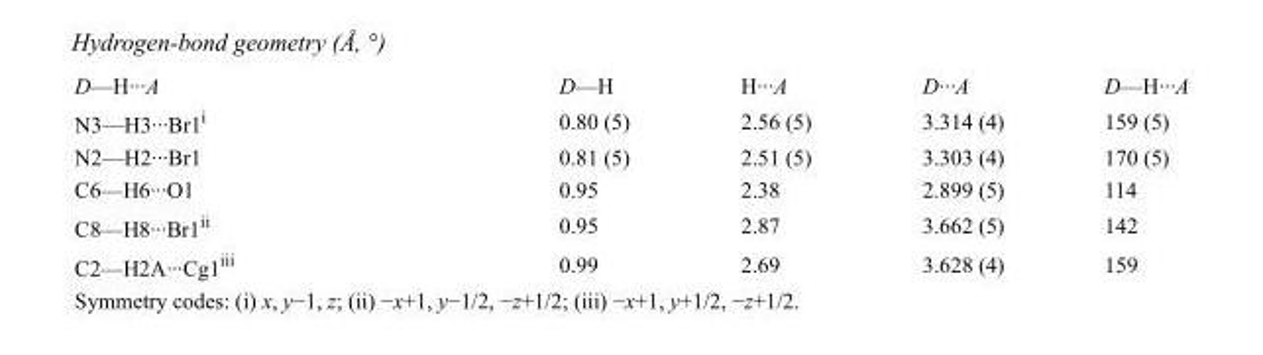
<table><tbody><tr><td>D—H···A</td><td>D—H</td><td>H···A</td><td>D···A</td><td>D—H···A</td></tr><tr><td>N3—H3···Br1<sup>i</sup></td><td>0.80 (5)</td><td>2.56 (5)</td><td>3.314 (4)</td><td>159 (5)</td></tr><tr><td>N2—H2···Br1</td><td>0.81 (5)</td><td>2.51 (5)</td><td>3.303 (4)</td><td>170 (5)</td></tr><tr><td>C6—H6···O1</td><td>0.95</td><td>2.38</td><td>2.899 (5)</td><td>114</td></tr><tr><td>C8—H8···Br1<sup>ii</sup></td><td>0.95</td><td>2.87</td><td>3.662 (5)</td><td>142</td></tr><tr><td>C2—H2A···Cg1<sup>iii</sup></td><td>0.99</td><td>2.69</td><td>3.628 (4)</td><td>159</td></tr></tbody></table>